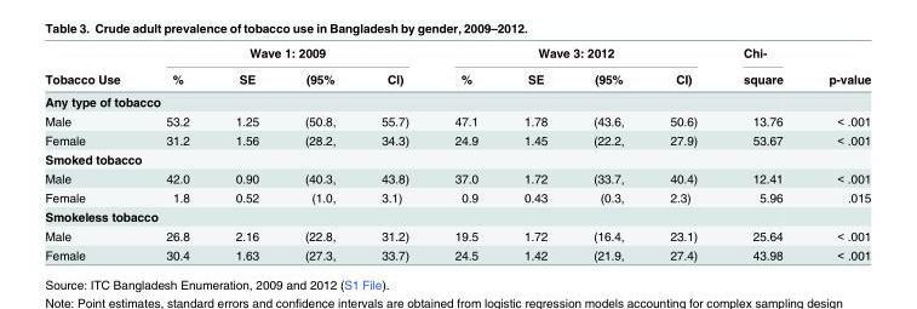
<table><thead><tr><td rowspan="2">Tobacco Use</td><td colspan="4">Wave 1: 2009</td><td colspan="4">Wave 3: 2012</td><td rowspan="2">Chi- square</td><td rowspan="2">p-value</td></tr><tr><td>%</td><td>SE</td><td>(95%</td><td>CI)</td><td>%</td><td>SE</td><td>(95%</td><td>CI)</td></tr></thead><tbody><tr><td colspan="11">Any type of tobacco</td></tr><tr><td>Male</td><td>53.2</td><td>1.25</td><td>(50.8,</td><td>55.7)</td><td>47.1</td><td>1.78</td><td>(43.6,</td><td>50.6)</td><td>13.76</td><td>&lt; .001</td></tr><tr><td>Female</td><td>31.2</td><td>1.56</td><td>(28.2,</td><td>34.3)</td><td>24.9</td><td>1.45</td><td>(22.2,</td><td>27.9)</td><td>53.67</td><td>&lt; .001</td></tr><tr><td colspan="11">Smoked tobacco</td></tr><tr><td>Male</td><td>42.0</td><td>0.90</td><td>(40.3,</td><td>43.8)</td><td>37.0</td><td>1.72</td><td>(33.7,</td><td>40.4)</td><td>12.41</td><td>&lt; .001</td></tr><tr><td>Female</td><td>1.8</td><td>0.52</td><td>(1.0,</td><td>3.1)</td><td>0.9</td><td>0.43</td><td>(0.3,</td><td>2.3)</td><td>5.96</td><td>.015</td></tr><tr><td colspan="11">Smokeless tobacco</td></tr><tr><td>Male</td><td>26.8</td><td>2.16</td><td>(22.8,</td><td>31.2)</td><td>19.5</td><td>1.72</td><td>(16.4,</td><td>23.1)</td><td>25.64</td><td>&lt; .001</td></tr><tr><td>Female</td><td>30.4</td><td>1.63</td><td>(27.3,</td><td>33.7)</td><td>24.5</td><td>1.42</td><td>(21.9,</td><td>27.4)</td><td>43.98</td><td>&lt; .001</td></tr></tbody></table>